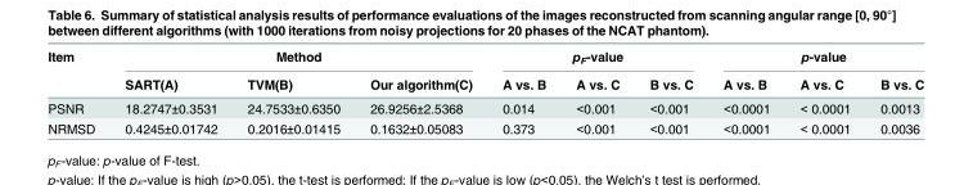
<table><thead><tr><td rowspan="2">Item</td><td colspan="3">Method</td><td colspan="3">p<sub>F</sub>-value</td><td colspan="3">p-value</td></tr><tr><td>SART(A)</td><td>TVM(B)</td><td>Our algorithm(C)</td><td>A vs. B</td><td>A vs. C</td><td>B vs. C</td><td>A vs. B</td><td>A vs. C</td><td>B vs. C</td></tr></thead><tbody><tr><td>PSNR</td><td>18.2747±0.3531</td><td>24.7533±0.6350</td><td>26.9256±2.5368</td><td>0.014</td><td>&lt;0.001</td><td>&lt;0.001</td><td>&lt;0.0001</td><td>&lt; 0.0001</td><td>0.0013</td></tr><tr><td>NRMSD</td><td>0.4245±0.01742</td><td>0.2016±0.01415</td><td>0.1632±0.05083</td><td>0.373</td><td>&lt;0.001</td><td>&lt;0.001</td><td>&lt;0.0001</td><td>&lt; 0.0001</td><td>0.0036</td></tr></tbody></table>